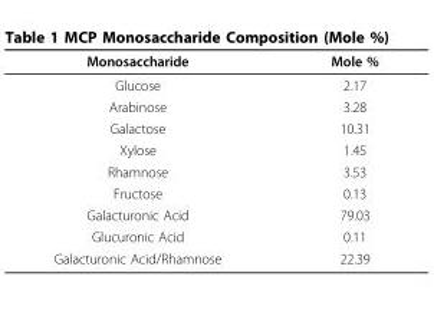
<table><thead><tr><td>Monosaccharide</td><td>Mole %</td></tr></thead><tbody><tr><td>Glucose</td><td>2.17</td></tr><tr><td>Arabinose</td><td>3.28</td></tr><tr><td>Galactose</td><td>10.31</td></tr><tr><td>Xylose</td><td>1.45</td></tr><tr><td>Rhamnose</td><td>3.53</td></tr><tr><td>Fructose</td><td>0.13</td></tr><tr><td>Galacturonic Acid</td><td>79.03</td></tr><tr><td>Glucuronic Acid</td><td>0.11</td></tr><tr><td>Galacturonic Acid/Rhamnose</td><td>22.39</td></tr></tbody></table>